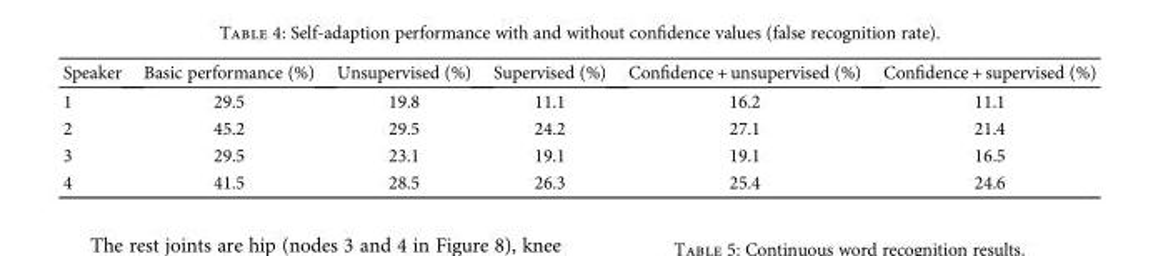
<table><thead><tr><td>Speaker</td><td>Basic performance (%)</td><td>Unsupervised (%)</td><td>Supervised (%)</td><td>Confidence + unsupervised (%)</td><td>Confidence + supervised (%)</td></tr></thead><tbody><tr><td>1</td><td>29.5</td><td>19.8</td><td>11.1</td><td>16.2</td><td>11.1</td></tr><tr><td>2</td><td>45.2</td><td>29.5</td><td>24.2</td><td>27.1</td><td>21.4</td></tr><tr><td>3</td><td>29.5</td><td>23.1</td><td>19.1</td><td>19.1</td><td>16.5</td></tr><tr><td>4</td><td>41.5</td><td>28.5</td><td>26.3</td><td>25.4</td><td>24.6</td></tr></tbody></table>